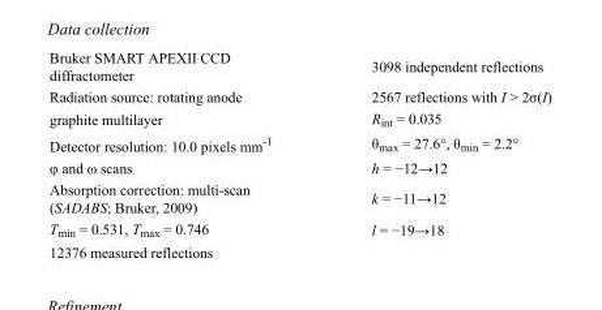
<table><tbody><tr><td>Bruker SMART APEXII CCD diffractometer</td><td>3098 independent reflections</td></tr><tr><td>Radiation source: rotating anode</td><td>2567 reflections with I &gt; 2σ(I)</td></tr><tr><td>graphite multilayer</td><td>R<sub>int</sub> = 0.035</td></tr><tr><td>Detector resolution: 10.0 pixels mm<sup>-1</sup></td><td>θ<sub>max</sub> = 27.6°, θ<sub>min</sub> = 2.2°</td></tr><tr><td>φ and ω scans</td><td>h = −12→12</td></tr><tr><td>Absorption correction: multi-scan (SADABS; Bruker, 2009)</td><td>k = −11→12</td></tr><tr><td>T<sub>min</sub> = 0.531, T<sub>max</sub> = 0.746</td><td>l = −19→18</td></tr><tr><td>12376 measured reflections</td><td></td></tr></tbody></table>